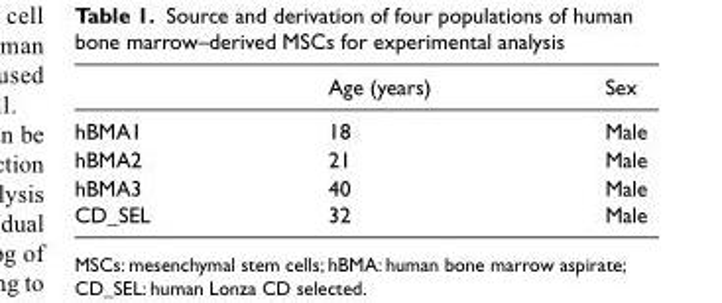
<table><thead><tr><td></td><td>Age (years)</td><td>Sex</td></tr></thead><tbody><tr><td>hBMA1</td><td>18</td><td>Male</td></tr><tr><td>hBMA2</td><td>21</td><td>Male</td></tr><tr><td>hBMA3</td><td>40</td><td>Male</td></tr><tr><td>CD_SEL</td><td>32</td><td>Male</td></tr></tbody></table>